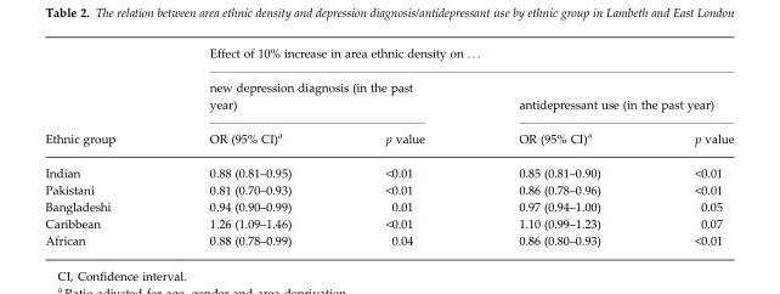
<table><thead><tr><td rowspan="3">Ethnic group</td><td colspan="4">Effect of 10% increase in area ethnic density on . . .</td></tr><tr><td colspan="2">new depression diagnosis (in the past year)</td><td colspan="2">antidepressant use (in the past year)</td></tr><tr><td>OR (95% CI)<sup>a</sup></td><td>p value</td><td>OR (95% CI)<sup>a</sup></td><td>p value</td></tr></thead><tbody><tr><td>Indian</td><td>0.88 (0.81–0.95)</td><td>&lt;0.01</td><td>0.85 (0.81–0.90)</td><td>&lt;0.01</td></tr><tr><td>Pakistani</td><td>0.81 (0.70–0.93)</td><td>&lt;0.01</td><td>0.86 (0.78–0.96)</td><td>&lt;0.01</td></tr><tr><td>Bangladeshi</td><td>0.94 (0.90–0.99)</td><td>0.01</td><td>0.97 (0.94–1.00)</td><td>0.05</td></tr><tr><td>Caribbean</td><td>1.26 (1.09–1.46)</td><td>&lt;0.01</td><td>1.10 (0.99–1.23)</td><td>0.07</td></tr><tr><td>African</td><td>0.88 (0.78–0.99)</td><td>0.04</td><td>0.86 (0.80–0.93)</td><td>&lt;0.01</td></tr></tbody></table>